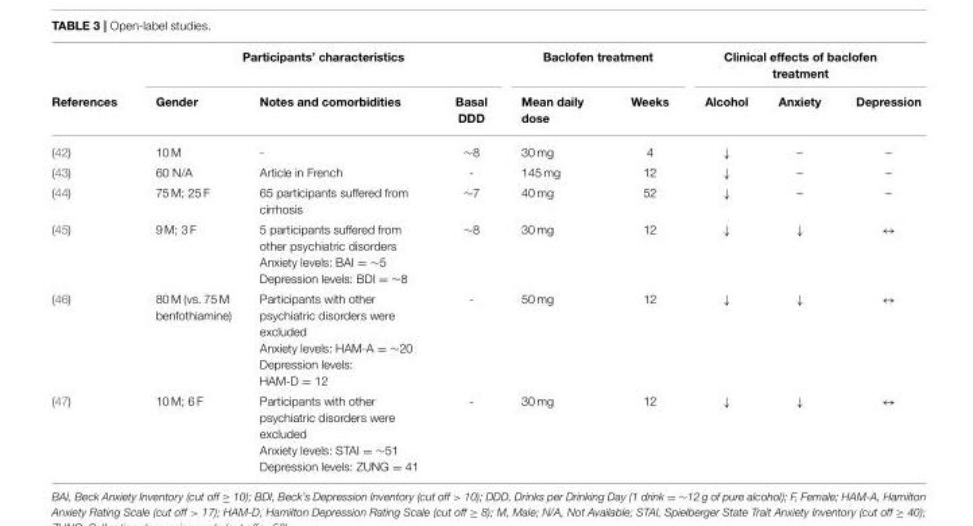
<table><thead><tr><td rowspan="2">References</td><td colspan="3">Participants’ characteristics</td><td colspan="2">Baclofen treatment</td><td colspan="3">Clinical effects of baclofen treatment</td></tr><tr><td>Gender</td><td>Notes and comorbidities</td><td>Basal DDD</td><td>Mean daily dose</td><td>Weeks</td><td>Alcohol</td><td>Anxiety</td><td>Depression</td></tr></thead><tbody><tr><td>(42)</td><td>10 M</td><td>-</td><td>∼8</td><td>30 mg</td><td>4</td><td>↓</td><td>–</td><td>–</td></tr><tr><td>(43)</td><td>60 N/A</td><td>Article in French</td><td>-</td><td>145 mg</td><td>12</td><td>↓</td><td>–</td><td>–</td></tr><tr><td>(44)</td><td>75 M; 25 F</td><td>65 participants suffered from cirrhosis</td><td>∼7</td><td>40 mg</td><td>52</td><td>↓</td><td>–</td><td>–</td></tr><tr><td>(45)</td><td>9 M; 3 F</td><td>5 participants suffered from other psychiatric disorders Anxiety levels: BAI = ∼5 Depression levels: BDI = ∼8</td><td>∼8</td><td>30 mg</td><td>12</td><td>↓</td><td>↓</td><td>↔</td></tr><tr><td>(46)</td><td>80 M (vs. 75 M benfothiamine)</td><td>Participants with other psychiatric disorders were excluded Anxiety levels: HAM-A = ∼20 Depression levels: HAM-D = 12</td><td>-</td><td>50 mg</td><td>12</td><td>↓</td><td>↓</td><td>↔</td></tr><tr><td>(47)</td><td>10 M; 6 F</td><td>Participants with other psychiatric disorders were excluded Anxiety levels: STAI = ∼51 Depression levels: ZUNG = 41</td><td>-</td><td>30 mg</td><td>12</td><td>↓</td><td>↓</td><td>↔</td></tr></tbody></table>